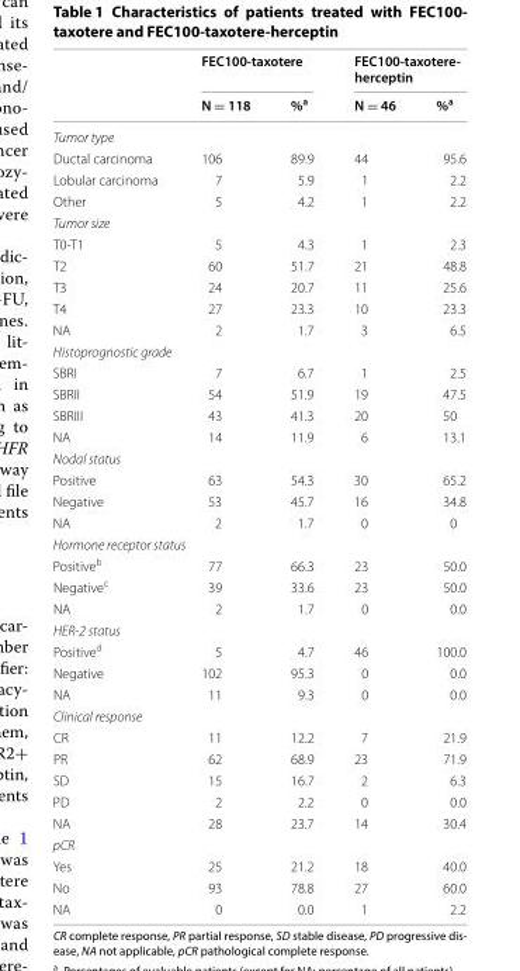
<table><thead><tr><td rowspan="2"></td><td colspan="2">FEC100-taxotere</td><td colspan="2">FEC100-taxotere- herceptin</td></tr><tr><td>N = 118</td><td>%<sup>a</sup></td><td>N = 46</td><td>%<sup>a</sup></td></tr></thead><tbody><tr><td colspan="5">Tumor type</td></tr><tr><td>Ductal carcinoma</td><td>106</td><td>89.9</td><td>44</td><td>95.6</td></tr><tr><td>Lobular carcinoma</td><td>7</td><td>5.9</td><td>1</td><td>2.2</td></tr><tr><td>Other</td><td>5</td><td>4.2</td><td>1</td><td>2.2</td></tr><tr><td colspan="5">Tumor size</td></tr><tr><td>T0‑T1</td><td>5</td><td>4.3</td><td>1</td><td>2.3</td></tr><tr><td>T2</td><td>60</td><td>51.7</td><td>21</td><td>48.8</td></tr><tr><td>T3</td><td>24</td><td>20.7</td><td>11</td><td>25.6</td></tr><tr><td>T4</td><td>27</td><td>23.3</td><td>10</td><td>23.3</td></tr><tr><td>NA</td><td>2</td><td>1.7</td><td>3</td><td>6.5</td></tr><tr><td colspan="5">Histoprognostic grade</td></tr><tr><td>SBRI</td><td>7</td><td>6.7</td><td>1</td><td>2.5</td></tr><tr><td>SBRII</td><td>54</td><td>51.9</td><td>19</td><td>47.5</td></tr><tr><td>SBRIII</td><td>43</td><td>41.3</td><td>20</td><td>50</td></tr><tr><td>NA</td><td>14</td><td>11.9</td><td>6</td><td>13.1</td></tr><tr><td colspan="5">Nodal status</td></tr><tr><td>Positive</td><td>63</td><td>54.3</td><td>30</td><td>65.2</td></tr><tr><td>Negative</td><td>53</td><td>45.7</td><td>16</td><td>34.8</td></tr><tr><td>NA</td><td>2</td><td>1.7</td><td>0</td><td>0</td></tr><tr><td colspan="5">Hormone receptor status</td></tr><tr><td>Positive<sup>b</sup></td><td>77</td><td>66.3</td><td>23</td><td>50.0</td></tr><tr><td>Negative<sup>c</sup></td><td>39</td><td>33.6</td><td>23</td><td>50.0</td></tr><tr><td>NA</td><td>2</td><td>1.7</td><td>0</td><td>0.0</td></tr><tr><td colspan="5">HER-2 status</td></tr><tr><td>Positive<sup>d</sup></td><td>5</td><td>4.7</td><td>46</td><td>100.0</td></tr><tr><td>Negative</td><td>102</td><td>95.3</td><td>0</td><td>0.0</td></tr><tr><td>NA</td><td>11</td><td>9.3</td><td>0</td><td>0.0</td></tr><tr><td colspan="5">Clinical response</td></tr><tr><td>CR</td><td>11</td><td>12.2</td><td>7</td><td>21.9</td></tr><tr><td>PR</td><td>62</td><td>68.9</td><td>23</td><td>71.9</td></tr><tr><td>SD</td><td>15</td><td>16.7</td><td>2</td><td>6.3</td></tr><tr><td>PD</td><td>2</td><td>2.2</td><td>0</td><td>0.0</td></tr><tr><td>NA</td><td>28</td><td>23.7</td><td>14</td><td>30.4</td></tr><tr><td colspan="5">pCR</td></tr><tr><td>Yes</td><td>25</td><td>21.2</td><td>18</td><td>40.0</td></tr><tr><td>No</td><td>93</td><td>78.8</td><td>27</td><td>60.0</td></tr><tr><td>NA</td><td>0</td><td>0.0</td><td>1</td><td>2.2</td></tr></tbody></table>